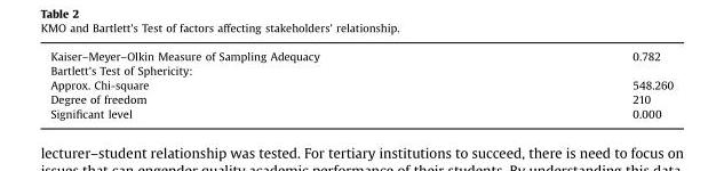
<table><tbody><tr><td>Kaiser–Meyer–Olkin Measure of Sampling Adequacy</td><td>0.782</td></tr><tr><td colspan="2">Bartlett&#x27;s Test of Sphericity:</td></tr><tr><td>Approx. Chi-square</td><td>548.260</td></tr><tr><td>Degree of freedom</td><td>210</td></tr><tr><td>Significant level</td><td>0.000</td></tr></tbody></table>